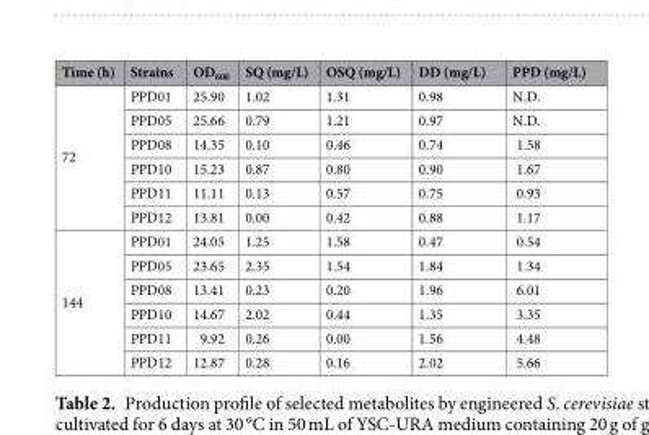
<table><thead><tr><td>Time (h)</td><td>Strains</td><td>OD<sub>600</sub></td><td>SQ (mg/L)</td><td>OSQ (mg/L)</td><td>DD (mg/L)</td><td>PPD (mg/L)</td></tr></thead><tbody><tr><td rowspan="6">72</td><td>PPD01</td><td>25.90</td><td>1.02</td><td>1.31</td><td>0.98</td><td>N.D.</td></tr><tr><td>PPD05</td><td>25.66</td><td>0.79</td><td>1.21</td><td>0.97</td><td>N.D.</td></tr><tr><td>PPD08</td><td>14.35</td><td>0.10</td><td>0.46</td><td>0.74</td><td>1.58</td></tr><tr><td>PPD10</td><td>15.23</td><td>0.87</td><td>0.80</td><td>0.90</td><td>1.67</td></tr><tr><td>PPD11</td><td>11.11</td><td>0.13</td><td>0.57</td><td>0.75</td><td>0.93</td></tr><tr><td>PPD12</td><td>13.81</td><td>0.00</td><td>0.42</td><td>0.88</td><td>1.17</td></tr><tr><td rowspan="6">144</td><td>PPD01</td><td>24.05</td><td>1.25</td><td>1.58</td><td>0.47</td><td>0.54</td></tr><tr><td>PPD05</td><td>23.65</td><td>2.35</td><td>1.54</td><td>1.84</td><td>1.34</td></tr><tr><td>PPD08</td><td>13.41</td><td>0.23</td><td>0.20</td><td>1.96</td><td>6.01</td></tr><tr><td>PPD10</td><td>14.67</td><td>2.02</td><td>0.44</td><td>1.35</td><td>3.35</td></tr><tr><td>PPD11</td><td>9.92</td><td>0.26</td><td>0.00</td><td>1.56</td><td>4.48</td></tr><tr><td>PPD12</td><td>12.87</td><td>0.28</td><td>0.16</td><td>2.02</td><td>5.66</td></tr></tbody></table>